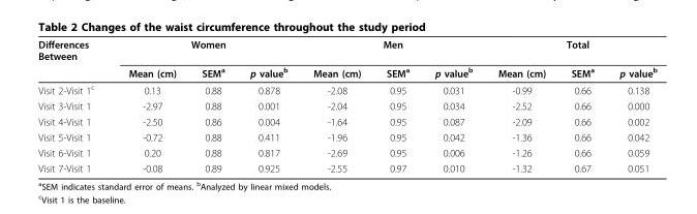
<table><thead><tr><td rowspan="2">Differences Between</td><td colspan="3">Women</td><td colspan="3">Men</td><td colspan="3">Total</td></tr><tr><td>Mean (cm)</td><td>SEM<sup>a</sup></td><td>p value<sup>b</sup></td><td>Mean (cm)</td><td>SEM<sup>a</sup></td><td>p value<sup>b</sup></td><td>Mean (cm)</td><td>SEM<sup>a</sup></td><td>p value<sup>b</sup></td></tr></thead><tbody><tr><td>Visit 2-Visit 1<sup>c</sup></td><td>0.13</td><td>0.88</td><td>0.878</td><td>-2.08</td><td>0.95</td><td>0.031</td><td>-0.99</td><td>0.66</td><td>0.138</td></tr><tr><td>Visit 3-Visit 1</td><td>-2.97</td><td>0.88</td><td>0.001</td><td>-2.04</td><td>0.95</td><td>0.034</td><td>-2.52</td><td>0.66</td><td>0.000</td></tr><tr><td>Visit 4-Visit 1</td><td>-2.50</td><td>0.86</td><td>0.004</td><td>-1.64</td><td>0.95</td><td>0.087</td><td>-2.09</td><td>0.66</td><td>0.002</td></tr><tr><td>Visit 5-Visit 1</td><td>-0.72</td><td>0.88</td><td>0.411</td><td>-1.96</td><td>0.95</td><td>0.042</td><td>-1.36</td><td>0.66</td><td>0.042</td></tr><tr><td>Visit 6-Visit 1</td><td>0.20</td><td>0.88</td><td>0.817</td><td>-2.69</td><td>0.95</td><td>0.006</td><td>-1.26</td><td>0.66</td><td>0.059</td></tr><tr><td>Visit 7-Visit 1</td><td>-0.08</td><td>0.89</td><td>0.925</td><td>-2.55</td><td>0.97</td><td>0.010</td><td>-1.32</td><td>0.67</td><td>0.051</td></tr></tbody></table>